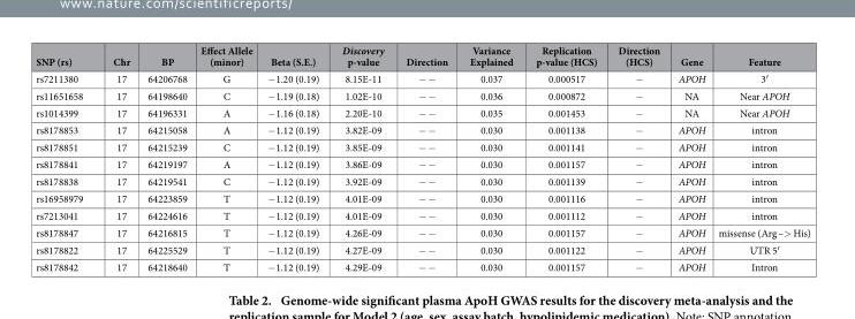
<table><thead><tr><td>SNP (rs)</td><td>Chr</td><td>BP</td><td>Effect Allele (minor)</td><td>Beta (S.E.)</td><td>Discovery p-value</td><td>Direction</td><td>Variance Explained</td><td>Replication p-value (HCS)</td><td>Direction (HCS)</td><td>Gene</td><td>Feature</td></tr></thead><tbody><tr><td>rs7211380</td><td>17</td><td>64206768</td><td>G</td><td>− 1.20 (0.19)</td><td>8.15E-11</td><td>− −</td><td>0.037</td><td>0.000517</td><td>−</td><td>APOH</td><td>3′</td></tr><tr><td>rs11651658</td><td>17</td><td>64198640</td><td>C</td><td>− 1.19 (0.18)</td><td>1.02E-10</td><td>− −</td><td>0.036</td><td>0.000872</td><td>−</td><td>NA</td><td>Near APOH</td></tr><tr><td>rs1014399</td><td>17</td><td>64196331</td><td>A</td><td>− 1.16 (0.18)</td><td>2.20E-10</td><td>− −</td><td>0.035</td><td>0.001453</td><td>−</td><td>NA</td><td>Near APOH</td></tr><tr><td>rs8178853</td><td>17</td><td>64215058</td><td>A</td><td>− 1.12 (0.19)</td><td>3.82E-09</td><td>− −</td><td>0.030</td><td>0.001138</td><td>−</td><td>APOH</td><td>intron</td></tr><tr><td>rs8178851</td><td>17</td><td>64215239</td><td>C</td><td>− 1.12 (0.19)</td><td>3.85E-09</td><td>− −</td><td>0.030</td><td>0.001141</td><td>−</td><td>APOH</td><td>intron</td></tr><tr><td>rs8178841</td><td>17</td><td>64219197</td><td>A</td><td>− 1.12 (0.19)</td><td>3.86E-09</td><td>− −</td><td>0.030</td><td>0.001157</td><td>−</td><td>APOH</td><td>intron</td></tr><tr><td>rs8178838</td><td>17</td><td>64219541</td><td>C</td><td>− 1.12 (0.19)</td><td>3.92E-09</td><td>− −</td><td>0.030</td><td>0.001139</td><td>−</td><td>APOH</td><td>intron</td></tr><tr><td>rs16958979</td><td>17</td><td>64223859</td><td>T</td><td>− 1.12 (0.19)</td><td>4.01E-09</td><td>− −</td><td>0.030</td><td>0.001116</td><td>−</td><td>APOH</td><td>intron</td></tr><tr><td>rs7213041</td><td>17</td><td>64224616</td><td>T</td><td>− 1.12 (0.19)</td><td>4.01E-09</td><td>− −</td><td>0.030</td><td>0.001112</td><td>−</td><td>APOH</td><td>intron</td></tr><tr><td>rs8178847</td><td>17</td><td>64216815</td><td>T</td><td>− 1.12 (0.19)</td><td>4.26E-09</td><td>− −</td><td>0.030</td><td>0.001157</td><td>−</td><td>APOH</td><td>missense (Arg –&gt; His)</td></tr><tr><td>rs8178822</td><td>17</td><td>64225529</td><td>T</td><td>− 1.12 (0.19)</td><td>4.27E-09</td><td>− −</td><td>0.030</td><td>0.001122</td><td>−</td><td>APOH</td><td>UTR 5′</td></tr><tr><td>rs8178842</td><td>17</td><td>64218640</td><td>T</td><td>− 1.12 (0.19)</td><td>4.29E-09</td><td>− −</td><td>0.030</td><td>0.001157</td><td>−</td><td>APOH</td><td>Intron</td></tr></tbody></table>